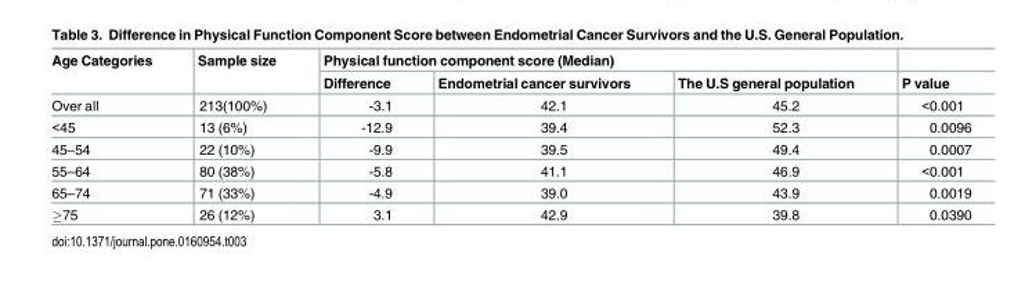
<table><thead><tr><td rowspan="2">Age Categories</td><td rowspan="2">Sample size</td><td colspan="3">Physical function component score (Median)</td><td rowspan="2">P value</td></tr><tr><td>Difference</td><td>Endometrial cancer survivors</td><td>The U.S general population</td></tr></thead><tbody><tr><td>Over all</td><td>213(100%)</td><td>-3.1</td><td>42.1</td><td>45.2</td><td>&lt;0.001</td></tr><tr><td>&lt;45</td><td>13 (6%)</td><td>-12.9</td><td>39.4</td><td>52.3</td><td>0.0096</td></tr><tr><td>45–54</td><td>22 (10%)</td><td>-9.9</td><td>39.5</td><td>49.4</td><td>0.0007</td></tr><tr><td>55–64</td><td>80 (38%)</td><td>-5.8</td><td>41.1</td><td>46.9</td><td>&lt;0.001</td></tr><tr><td>65–74</td><td>71 (33%)</td><td>-4.9</td><td>39.0</td><td>43.9</td><td>0.0019</td></tr><tr><td>≥75</td><td>26 (12%)</td><td>3.1</td><td>42.9</td><td>39.8</td><td>0.0390</td></tr></tbody></table>